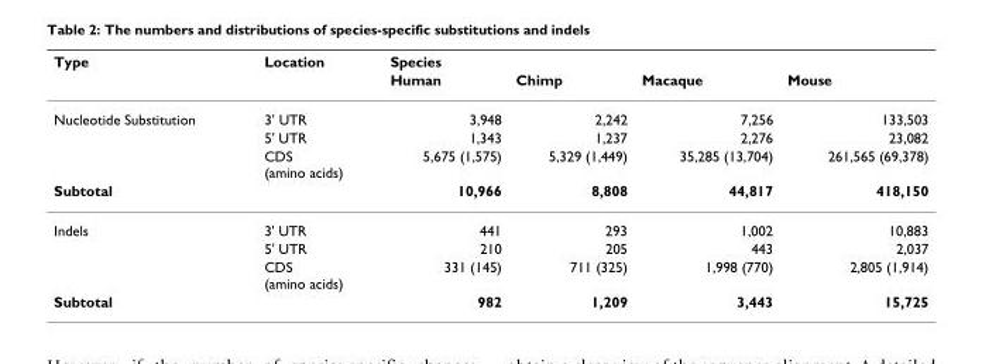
<table><thead><tr><td rowspan="2">Type</td><td rowspan="2">Location</td><td colspan="4">Species</td></tr><tr><td>Human</td><td>Chimp</td><td>Macaque</td><td>Mouse</td></tr></thead><tbody><tr><td rowspan="3">Nucleotide Substitution</td><td>3&#x27; UTR</td><td>3,948</td><td>2,242</td><td>7,256</td><td>133,503</td></tr><tr><td>5&#x27; UTR</td><td>1,343</td><td>1,237</td><td>2,276</td><td>23,082</td></tr><tr><td>CDS (amino acids)</td><td>5,675 (1,575)</td><td>5,329 (1,449)</td><td>35,285 (13,704)</td><td>261,565 (69,378)</td></tr><tr><td>Subtotal</td><td></td><td>10,966</td><td>8,808</td><td>44,817</td><td>418,150</td></tr><tr><td rowspan="3">Indels</td><td>3&#x27; UTR</td><td>441</td><td>293</td><td>1,002</td><td>10,883</td></tr><tr><td>5&#x27; UTR</td><td>210</td><td>205</td><td>443</td><td>2,037</td></tr><tr><td>CDS (amino acids)</td><td>331 (145)</td><td>711 (325)</td><td>1,998 (770)</td><td>2,805 (1,914)</td></tr><tr><td>Subtotal</td><td></td><td>982</td><td>1,209</td><td>3,443</td><td>15,725</td></tr></tbody></table>